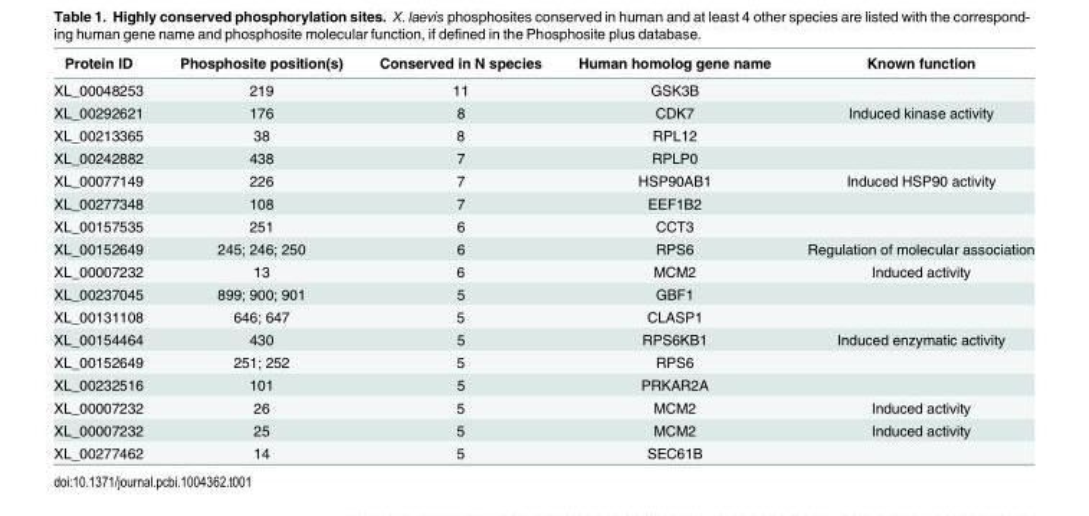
<table><thead><tr><td>Protein ID</td><td>Phosphosite position(s)</td><td>Conserved in N species</td><td>Human homolog gene name</td><td>Known function</td></tr></thead><tbody><tr><td>XL_00048253</td><td>219</td><td>11</td><td>GSK3B</td><td></td></tr><tr><td>XL_00292621</td><td>176</td><td>8</td><td>CDK7</td><td>Induced kinase activity</td></tr><tr><td>XL_00213365</td><td>38</td><td>8</td><td>RPL12</td><td></td></tr><tr><td>XL_00242882</td><td>438</td><td>7</td><td>RPLP0</td><td></td></tr><tr><td>XL_00077149</td><td>226</td><td>7</td><td>HSP90AB1</td><td>Induced HSP90 activity</td></tr><tr><td>XL_00277348</td><td>108</td><td>7</td><td>EEF1B2</td><td></td></tr><tr><td>XL_00157535</td><td>251</td><td>6</td><td>CCT3</td><td></td></tr><tr><td>XL_00152649</td><td>245; 246; 250</td><td>6</td><td>RPS6</td><td>Regulation of molecular association</td></tr><tr><td>XL_00007232</td><td>13</td><td>6</td><td>MCM2</td><td>Induced activity</td></tr><tr><td>XL_00237045</td><td>899; 900; 901</td><td>5</td><td>GBF1</td><td></td></tr><tr><td>XL_00131108</td><td>646; 647</td><td>5</td><td>CLASP1</td><td></td></tr><tr><td>XL_00154464</td><td>430</td><td>5</td><td>RPS6KB1</td><td>Induced enzymatic activity</td></tr><tr><td>XL_00152649</td><td>251; 252</td><td>5</td><td>RPS6</td><td></td></tr><tr><td>XL_00232516</td><td>101</td><td>5</td><td>PRKAR2A</td><td></td></tr><tr><td>XL_00007232</td><td>26</td><td>5</td><td>MCM2</td><td>Induced activity</td></tr><tr><td>XL_00007232</td><td>25</td><td>5</td><td>MCM2</td><td>Induced activity</td></tr><tr><td>XL_00277462</td><td>14</td><td>5</td><td>SEC61B</td><td></td></tr></tbody></table>